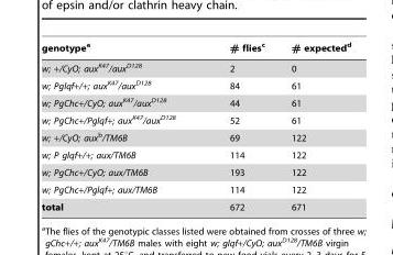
<table><thead><tr><td>genotype<sup>a</sup></td><td># flies<sup>c</sup></td><td># expected<sup>d</sup></td></tr></thead><tbody><tr><td>w; +/CyO; aux<sup>K47</sup>/aux<sup>D128</sup></td><td>2</td><td>0</td></tr><tr><td>w; Pglqf+/+; aux<sup>K47</sup>/aux<sup>D128</sup></td><td>84</td><td>61</td></tr><tr><td>w; PgChc+/CyO; aux<sup>K47</sup>/aux<sup>D128</sup></td><td>44</td><td>61</td></tr><tr><td>w; PgChc+/Pglqf+; aux<sup>K47</sup>/aux<sup>D128</sup></td><td>52</td><td>61</td></tr><tr><td>w; +/CyO; auxb/TM6B</td><td>69</td><td>122</td></tr><tr><td>w; P glqf+/+; aux/TM6B</td><td>114</td><td>122</td></tr><tr><td>w; PgChc+/CyO; aux/TM6B</td><td>193</td><td>122</td></tr><tr><td>w; PgChc+/Pglqf+; aux/TM6B</td><td>114</td><td>122</td></tr><tr><td>total</td><td>672</td><td>671</td></tr></tbody></table>